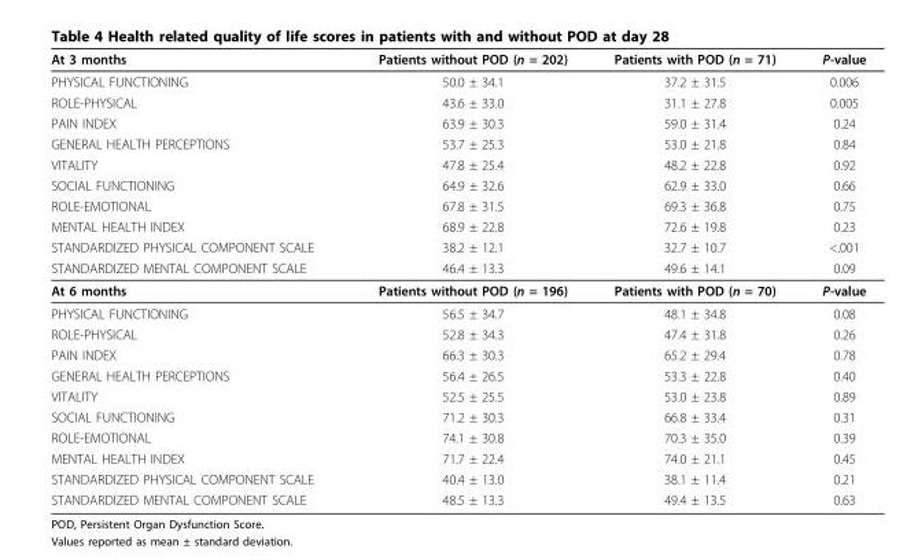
<table><thead><tr><td>At 3 months</td><td>Patients without POD (n = 202)</td><td>Patients with POD (n = 71)</td><td>P-value</td></tr></thead><tbody><tr><td>PHYSICAL FUNCTIONING</td><td>50.0 ± 34.1</td><td>37.2 ± 31.5</td><td>0.006</td></tr><tr><td>ROLE-PHYSICAL</td><td>43.6 ± 33.0</td><td>31.1 ± 27.8</td><td>0.005</td></tr><tr><td>PAIN INDEX</td><td>63.9 ± 30.3</td><td>59.0 ± 31.4</td><td>0.24</td></tr><tr><td>GENERAL HEALTH PERCEPTIONS</td><td>53.7 ± 25.3</td><td>53.0 ± 21.8</td><td>0.84</td></tr><tr><td>VITALITY</td><td>47.8 ± 25.4</td><td>48.2 ± 22.8</td><td>0.92</td></tr><tr><td>SOCIAL FUNCTIONING</td><td>64.9 ± 32.6</td><td>62.9 ± 33.0</td><td>0.66</td></tr><tr><td>ROLE-EMOTIONAL</td><td>67.8 ± 31.5</td><td>69.3 ± 36.8</td><td>0.75</td></tr><tr><td>MENTAL HEALTH INDEX</td><td>68.9 ± 22.8</td><td>72.6 ± 19.8</td><td>0.23</td></tr><tr><td>STANDARDIZED PHYSICAL COMPONENT SCALE</td><td>38.2 ± 12.1</td><td>32.7 ± 10.7</td><td>&lt;.001</td></tr><tr><td>STANDARDIZED MENTAL COMPONENT SCALE</td><td>46.4 ± 13.3</td><td>49.6 ± 14.1</td><td>0.09</td></tr><tr><td>At 6 months</td><td>Patients without POD (n = 196)</td><td>Patients with POD (n = 70)</td><td>P-value</td></tr><tr><td>PHYSICAL FUNCTIONING</td><td>56.5 ± 34.7</td><td>48.1 ± 34.8</td><td>0.08</td></tr><tr><td>ROLE-PHYSICAL</td><td>52.8 ± 34.3</td><td>47.4 ± 31.8</td><td>0.26</td></tr><tr><td>PAIN INDEX</td><td>66.3 ± 30.3</td><td>65.2 ± 29.4</td><td>0.78</td></tr><tr><td>GENERAL HEALTH PERCEPTIONS</td><td>56.4 ± 26.5</td><td>53.3 ± 22.8</td><td>0.40</td></tr><tr><td>VITALITY</td><td>52.5 ± 25.5</td><td>53.0 ± 23.8</td><td>0.89</td></tr><tr><td>SOCIAL FUNCTIONING</td><td>71.2 ± 30.3</td><td>66.8 ± 33.4</td><td>0.31</td></tr><tr><td>ROLE-EMOTIONAL</td><td>74.1 ± 30.8</td><td>70.3 ± 35.0</td><td>0.39</td></tr><tr><td>MENTAL HEALTH INDEX</td><td>71.7 ± 22.4</td><td>74.0 ± 21.1</td><td>0.45</td></tr><tr><td>STANDARDIZED PHYSICAL COMPONENT SCALE</td><td>40.4 ± 13.0</td><td>38.1 ± 11.4</td><td>0.21</td></tr><tr><td>STANDARDIZED MENTAL COMPONENT SCALE</td><td>48.5 ± 13.3</td><td>49.4 ± 13.5</td><td>0.63</td></tr></tbody></table>